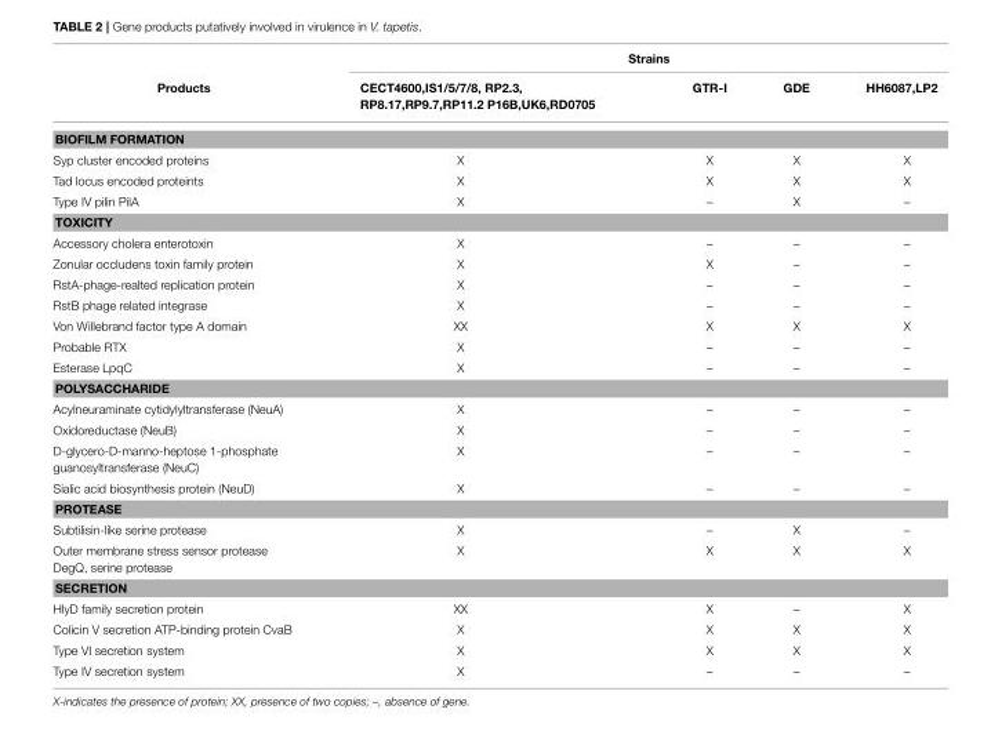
<table><thead><tr><td rowspan="2">Products</td><td colspan="4">Strains</td></tr><tr><td>CECT4600,IS1/5/7/8, RP2.3, RP8.17,RP9.7,RP11.2 P16B,UK6,RD0705</td><td>GTR-I</td><td>GDE</td><td>HH6087,LP2</td></tr></thead><tbody><tr><td colspan="5">BIOFILM FORMATION</td></tr><tr><td>Syp cluster encoded proteins</td><td>X</td><td>X</td><td>X</td><td>X</td></tr><tr><td>Tad locus encoded proteints</td><td>X</td><td>X</td><td>X</td><td>X</td></tr><tr><td>Type IV pilin PilA</td><td>X</td><td>–</td><td>X</td><td>–</td></tr><tr><td colspan="5">TOXICITY</td></tr><tr><td>Accessory cholera enterotoxin</td><td>X</td><td>–</td><td>–</td><td>–</td></tr><tr><td>Zonular occludens toxin family protein</td><td>X</td><td>X</td><td>–</td><td>–</td></tr><tr><td>RstA-phage-realted replication protein</td><td>X</td><td>–</td><td>–</td><td>–</td></tr><tr><td>RstB phage related integrase</td><td>X</td><td>–</td><td>–</td><td>–</td></tr><tr><td>Von Willebrand factor type A domain</td><td>XX</td><td>X</td><td>X</td><td>X</td></tr><tr><td>Probable RTX</td><td>X</td><td>–</td><td>–</td><td>–</td></tr><tr><td>Esterase LpqC</td><td>X</td><td>–</td><td>–</td><td>–</td></tr><tr><td colspan="5">POLYSACCHARIDE</td></tr><tr><td>Acylneuraminate cytidylyltransferase (NeuA)</td><td>X</td><td>–</td><td>–</td><td>–</td></tr><tr><td>Oxidoreductase (NeuB)</td><td>X</td><td>–</td><td>–</td><td>–</td></tr><tr><td>D-glycero-D-manno-heptose 1-phosphate guanosyltransferase (NeuC)</td><td>X</td><td>–</td><td>–</td><td>–</td></tr><tr><td>Sialic acid biosynthesis protein (NeuD)</td><td>X</td><td>–</td><td>–</td><td>–</td></tr><tr><td colspan="5">PROTEASE</td></tr><tr><td>Subtilisin-like serine protease</td><td>X</td><td>–</td><td>X</td><td>–</td></tr><tr><td>Outer membrane stress sensor protease DegQ, serine protease</td><td>X</td><td>X</td><td>X</td><td>X</td></tr><tr><td colspan="5">SECRETION</td></tr><tr><td>HlyD family secretion protein</td><td>XX</td><td>X</td><td>–</td><td>X</td></tr><tr><td>Colicin V secretion ATP-binding protein CvaB</td><td>X</td><td>X</td><td>X</td><td>X</td></tr><tr><td>Type VI secretion system</td><td>X</td><td>X</td><td>X</td><td>X</td></tr><tr><td>Type IV secretion system</td><td>X</td><td>–</td><td>–</td><td>–</td></tr></tbody></table>